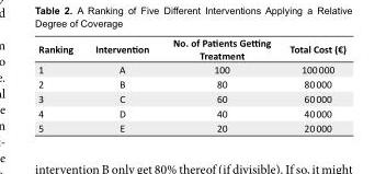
<table><tbody><tr><td>Ranking</td><td>Intervention</td><td>No. of Patients Getting Treatment</td><td>Total Cost (€)</td></tr><tr><td>1</td><td>A</td><td>100</td><td>100 000</td></tr><tr><td>2</td><td>B</td><td>80</td><td>80 000</td></tr><tr><td>3</td><td>C</td><td>60</td><td>60 000</td></tr><tr><td>4</td><td>D</td><td>40</td><td>40 000</td></tr><tr><td>5</td><td>E</td><td>20</td><td>20 000</td></tr></tbody></table>